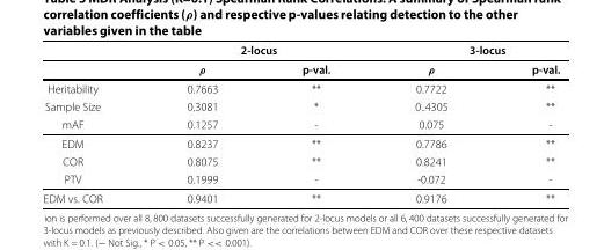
<table><thead><tr><td rowspan="2"></td><td colspan="2">2-locus</td><td colspan="2">3-locus</td></tr><tr><td>ρ</td><td>p-val.</td><td>ρ</td><td>p-val.</td></tr></thead><tbody><tr><td>Heritability</td><td>0.7663</td><td>**</td><td>0.7722</td><td>**</td></tr><tr><td>Sample Size</td><td>0.3081</td><td>*</td><td>0..4305</td><td>**</td></tr><tr><td>mAF</td><td>0.1257</td><td>-</td><td>0.075</td><td>-</td></tr><tr><td>EDM</td><td>0.8237</td><td>**</td><td>0.7786</td><td>**</td></tr><tr><td>COR</td><td>0.8075</td><td>**</td><td>0.8241</td><td>**</td></tr><tr><td>PTV</td><td>0.1999</td><td>-</td><td>-0.072</td><td>-</td></tr><tr><td>EDM vs. COR</td><td>0.9401</td><td>**</td><td>0.9176</td><td>**</td></tr></tbody></table>